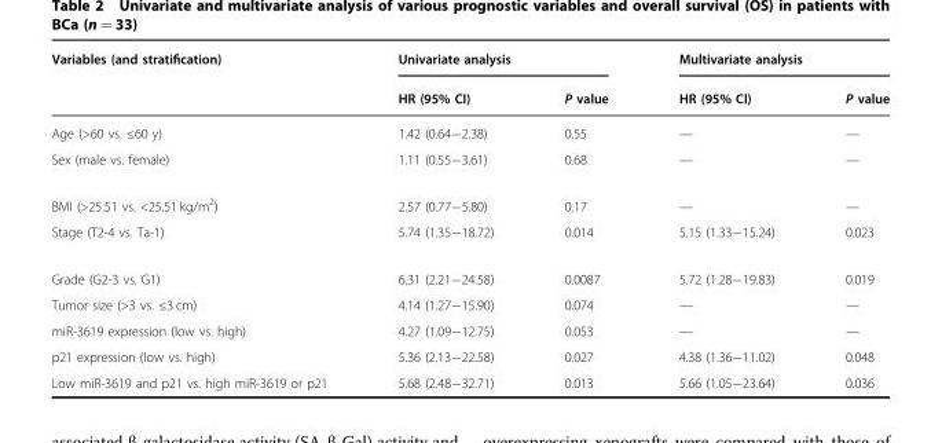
<table><thead><tr><td rowspan="2">Variables (and stratification)</td><td colspan="2">Univariate analysis</td><td colspan="2">Multivariate analysis</td></tr><tr><td>HR (95% CI)</td><td>P value</td><td>HR (95% CI)</td><td>P value</td></tr></thead><tbody><tr><td>Age (&gt;60 vs. ≤60 y)</td><td>1.42 (0.64−2.38)</td><td>0.55</td><td>—</td><td>—</td></tr><tr><td>Sex (male vs. female)</td><td>1.11 (0.55−3.61)</td><td>0.68</td><td>—</td><td>—</td></tr><tr><td>BMI (&gt;25.51 vs. &lt;25.51 kg/m<sup>2</sup>)</td><td>2.57 (0.77−5.80)</td><td>0.17</td><td>—</td><td>—</td></tr><tr><td>Stage (T2-4 vs. Ta-1)</td><td>5.74 (1.35−18.72)</td><td>0.014</td><td>5.15 (1.33−15.24)</td><td>0.023</td></tr><tr><td>Grade (G2-3 vs. G1)</td><td>6.31 (2.21−24.58)</td><td>0.0087</td><td>5.72 (1.28−19.83)</td><td>0.019</td></tr><tr><td>Tumor size (&gt;3 vs. ≤3 cm)</td><td>4.14 (1.27−15.90)</td><td>0.074</td><td>—</td><td>—</td></tr><tr><td>miR-3619 expression (low vs. high)</td><td>4.27 (1.09−12.75)</td><td>0.053</td><td>—</td><td>—</td></tr><tr><td>p21 expression (low vs. high)</td><td>5.36 (2.13−22.58)</td><td>0.027</td><td>4.38 (1.36−11.02)</td><td>0.048</td></tr><tr><td>Low miR-3619 and p21 vs. high miR-3619 or p21</td><td>5.68 (2.48−32.71)</td><td>0.013</td><td>5.66 (1.05−23.64)</td><td>0.036</td></tr></tbody></table>